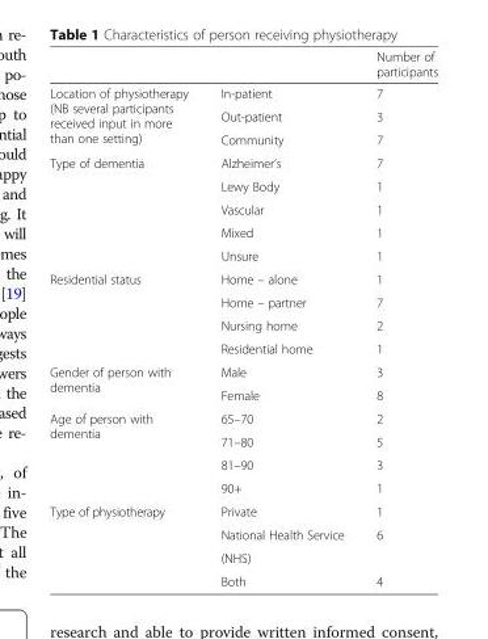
<table><thead><tr><td></td><td></td><td>Number of participants</td></tr></thead><tbody><tr><td rowspan="3">Location of physiotherapy (NB several participants received input in more than one setting)</td><td>In-patient</td><td>7</td></tr><tr><td>Out-patient</td><td>3</td></tr><tr><td>Community</td><td>7</td></tr><tr><td rowspan="5">Type of dementia</td><td>Alzheimer’s</td><td>7</td></tr><tr><td>Lewy Body</td><td>1</td></tr><tr><td>Vascular</td><td>1</td></tr><tr><td>Mixed</td><td>1</td></tr><tr><td>Unsure</td><td>1</td></tr><tr><td rowspan="4">Residential status</td><td>Home – alone</td><td>1</td></tr><tr><td>Home – partner</td><td>7</td></tr><tr><td>Nursing home</td><td>2</td></tr><tr><td>Residential home</td><td>1</td></tr><tr><td rowspan="2">Gender of person with dementia</td><td>Male</td><td>3</td></tr><tr><td>Female</td><td>8</td></tr><tr><td rowspan="4">Age of person with dementia</td><td>65–70</td><td>2</td></tr><tr><td>71–80</td><td>5</td></tr><tr><td>81–90</td><td>3</td></tr><tr><td>90+</td><td>1</td></tr><tr><td rowspan="4">Type of physiotherapy</td><td>Private</td><td>1</td></tr><tr><td>National Health Service</td><td>6</td></tr><tr><td>(NHS)</td><td></td></tr><tr><td>Both</td><td>4</td></tr></tbody></table>